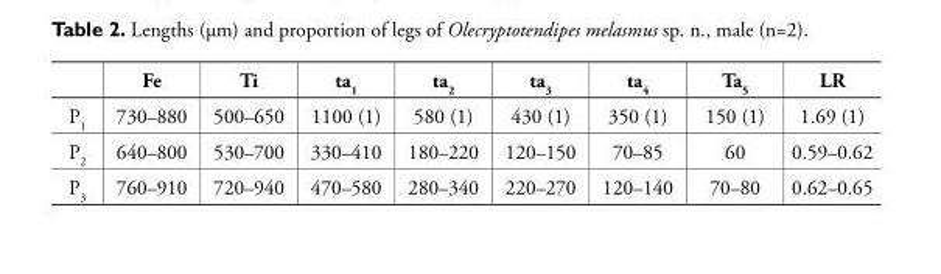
<table><thead><tr><td></td><td>Fe</td><td>Ti</td><td>ta<sub>1</sub></td><td>ta<sub>2</sub></td><td>ta<sub>3</sub></td><td>ta<sub>4</sub></td><td>Ta<sub>5</sub></td><td>LR</td></tr></thead><tbody><tr><td>P<sub>1</sub></td><td>730–880</td><td>500–650</td><td>1100 (1)</td><td>580 (1)</td><td>430 (1)</td><td>350 (1)</td><td>150 (1)</td><td>1.69 (1)</td></tr><tr><td>P<sub>2</sub></td><td>640–800</td><td>530–700</td><td>330–410</td><td>180–220</td><td>120–150</td><td>70–85</td><td>60</td><td>0.59–0.62</td></tr><tr><td>P<sub>3</sub></td><td>760–910</td><td>720–940</td><td>470–580</td><td>280–340</td><td>220–270</td><td>120–140</td><td>70–80</td><td>0.62–0.65</td></tr></tbody></table>